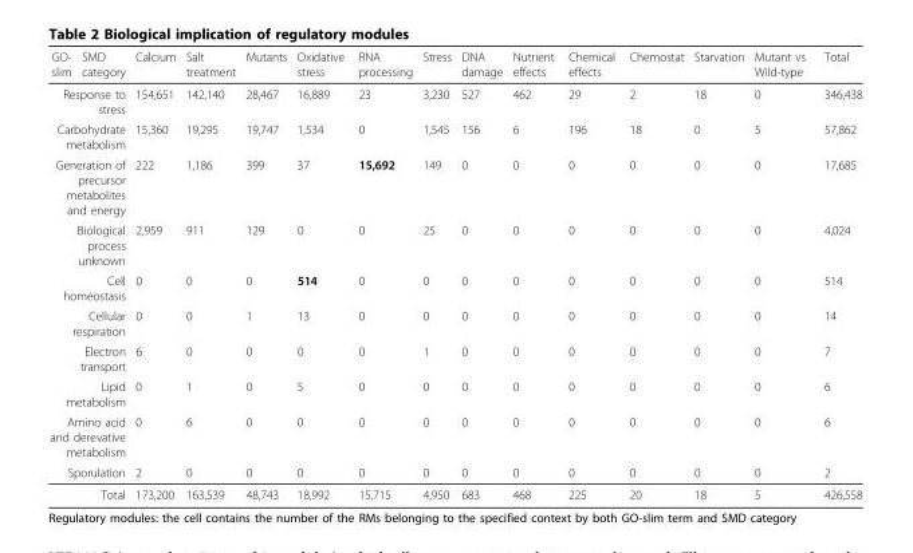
<table><thead><tr><td>GO- slim</td><td>SMD category</td><td>Calcium</td><td>Salt treatment</td><td>Mutants</td><td>Oxidative stress</td><td>RNA processing</td><td>Stress</td><td>DNA damage</td><td>Nutrient effects</td><td>Chemical effects</td><td>Chemostat</td><td>Starvation</td><td>Mutant vs Wild-type</td><td>Total</td></tr></thead><tbody><tr><td colspan="2">Response to stress</td><td>154,651</td><td>142,140</td><td>28,467</td><td>16,889</td><td>23</td><td>3,230</td><td>527</td><td>462</td><td>29</td><td>2</td><td>18</td><td>0</td><td>346,438</td></tr><tr><td colspan="2">Carbohydrate metabolism</td><td>15,360</td><td>19,295</td><td>19,747</td><td>1,534</td><td>0</td><td>1,545</td><td>156</td><td>6</td><td>196</td><td>18</td><td>0</td><td>5</td><td>57,862</td></tr><tr><td colspan="2">Generation of precursor metabolites and energy</td><td>222</td><td>1,186</td><td>399</td><td>37</td><td>15,692</td><td>149</td><td>0</td><td>0</td><td>0</td><td>0</td><td>0</td><td>0</td><td>17,685</td></tr><tr><td colspan="2">Biological process unknown</td><td>2,959</td><td>911</td><td>129</td><td>0</td><td>0</td><td>25</td><td>0</td><td>0</td><td>0</td><td>0</td><td>0</td><td>0</td><td>4,024</td></tr><tr><td colspan="2">Cell homeostasis</td><td>0</td><td>0</td><td>0</td><td>514</td><td>0</td><td>0</td><td>0</td><td>0</td><td>0</td><td>0</td><td>0</td><td>0</td><td>514</td></tr><tr><td colspan="2">Cellular respiration</td><td>0</td><td>0</td><td>1</td><td>13</td><td>0</td><td>0</td><td>0</td><td>0</td><td>0</td><td>0</td><td>0</td><td>0</td><td>14</td></tr><tr><td colspan="2">Electron transport</td><td>6</td><td>0</td><td>0</td><td>0</td><td>0</td><td>1</td><td>0</td><td>0</td><td>0</td><td>0</td><td>0</td><td>0</td><td>7</td></tr><tr><td colspan="2">Lipid metabolism</td><td>0</td><td>1</td><td>0</td><td>5</td><td>0</td><td>0</td><td>0</td><td>0</td><td>0</td><td>0</td><td>0</td><td>0</td><td>6</td></tr><tr><td colspan="2">Amino acid and derevative metabolism</td><td>0</td><td>6</td><td>0</td><td>0</td><td>0</td><td>0</td><td>0</td><td>0</td><td>0</td><td>0</td><td>0</td><td>0</td><td>6</td></tr><tr><td colspan="2">Sporulation</td><td>2</td><td>0</td><td>0</td><td>0</td><td>0</td><td>0</td><td>0</td><td>0</td><td>0</td><td>0</td><td>0</td><td>0</td><td>2</td></tr><tr><td colspan="2">Total</td><td>173,200</td><td>163,539</td><td>48,743</td><td>18,992</td><td>15,715</td><td>4,950</td><td>683</td><td>468</td><td>225</td><td>20</td><td>18</td><td>5</td><td>426,558</td></tr></tbody></table>